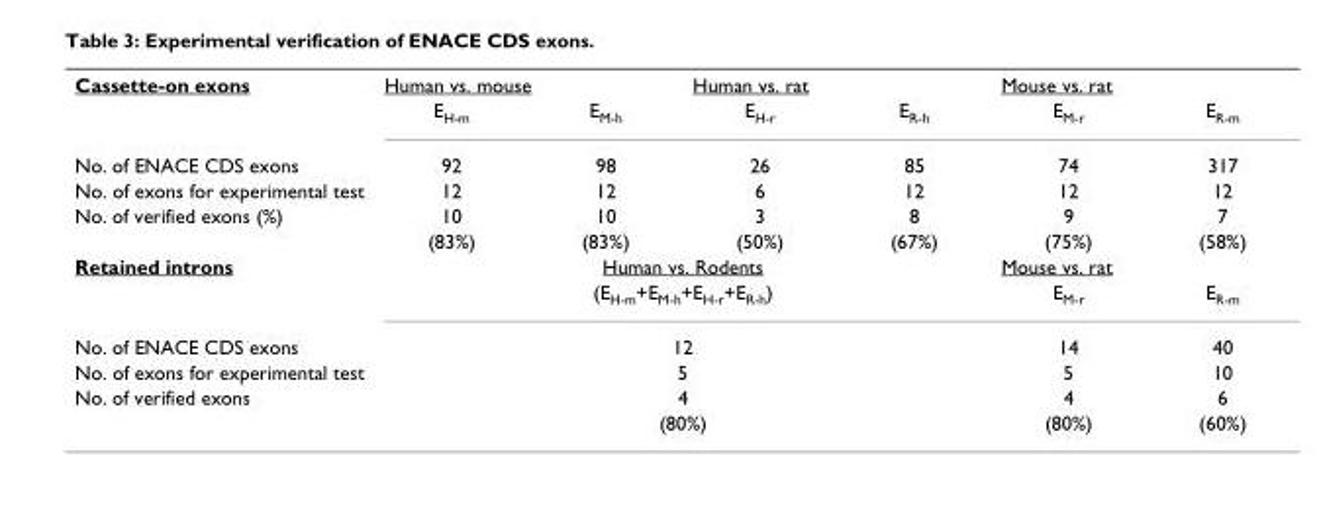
<table><tbody><tr><td rowspan="2">Cassette-on exons</td><td colspan="2">Human vs. mouse</td><td colspan="2">Human vs. rat</td><td colspan="2">Mouse vs. rat</td></tr><tr><td>EH-m</td><td>EM-h</td><td>EH-r</td><td>ER-h</td><td>EM-r</td><td>ER-m</td></tr><tr><td>No. of ENACE CDS exons</td><td>92</td><td>98</td><td>26</td><td>85</td><td>74</td><td>317</td></tr><tr><td>No. of exons for experimental test</td><td>12</td><td>12</td><td>6</td><td>12</td><td>12</td><td>12</td></tr><tr><td rowspan="2">No. of verified exons (%)</td><td>10</td><td>10</td><td>3</td><td>8</td><td>9</td><td>7</td></tr><tr><td>(83%)</td><td>(83%)</td><td>(50%)</td><td>(67%)</td><td>(75%)</td><td>(58%)</td></tr><tr><td rowspan="2">Retained introns</td><td colspan="4">Human vs. Rodents</td><td colspan="2">Mouse vs. rat</td></tr><tr><td colspan="4">(EH-m+EM-h+EH-r+ER-h)</td><td>EM-r</td><td>ER-m</td></tr><tr><td>No. of ENACE CDS exons</td><td colspan="4">12</td><td>14</td><td>40</td></tr><tr><td>No. of exons for experimental test</td><td colspan="4">5</td><td>5</td><td>10</td></tr><tr><td rowspan="2">No. of verified exons</td><td colspan="4">4</td><td>4</td><td>6</td></tr><tr><td colspan="4">(80%)</td><td>(80%)</td><td>(60%)</td></tr></tbody></table>